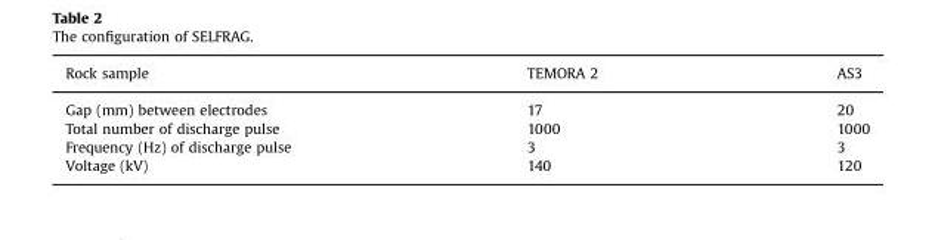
<table><thead><tr><td>Rock sample</td><td>TEMORA 2</td><td>AS3</td></tr></thead><tbody><tr><td>Gap (mm) between electrodes</td><td>17</td><td>20</td></tr><tr><td>Total number of discharge pulse</td><td>1000</td><td>1000</td></tr><tr><td>Frequency (Hz) of discharge pulse</td><td>3</td><td>3</td></tr><tr><td>Voltage (kV)</td><td>140</td><td>120</td></tr></tbody></table>